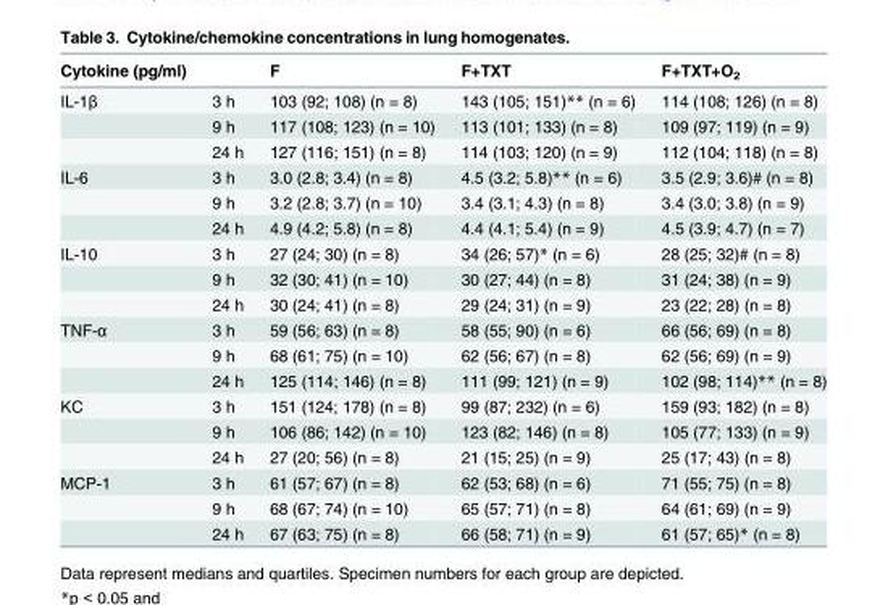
<table><thead><tr><td>Cytokine (pg/ml)</td><td></td><td>F</td><td>F+TXT</td><td>F+TXT+O<sub>2</sub></td></tr></thead><tbody><tr><td rowspan="3">IL-1β</td><td>3 h</td><td>103 (92; 108) (n = 8)</td><td>143 (105; 151)** (n = 6)</td><td>114 (108; 126) (n = 8)</td></tr><tr><td>9 h</td><td>117 (108; 123) (n = 10)</td><td>113 (101; 133) (n = 8)</td><td>109 (97; 119) (n = 9)</td></tr><tr><td>24 h</td><td>127 (116; 151) (n = 8)</td><td>114 (103; 120) (n = 9)</td><td>112 (104; 118) (n = 8)</td></tr><tr><td rowspan="3">IL-6</td><td>3 h</td><td>3.0 (2.8; 3.4) (n = 8)</td><td>4.5 (3.2; 5.8)** (n = 6)</td><td>3.5 (2.9; 3.6)# (n = 8)</td></tr><tr><td>9 h</td><td>3.2 (2.8; 3.7) (n = 10)</td><td>3.4 (3.1; 4.3) (n = 8)</td><td>3.4 (3.0; 3.8) (n = 9)</td></tr><tr><td>24 h</td><td>4.9 (4.2; 5.8) (n = 8)</td><td>4.4 (4.1; 5.4) (n = 9)</td><td>4.5 (3.9; 4.7) (n = 7)</td></tr><tr><td rowspan="3">IL-10</td><td>3 h</td><td>27 (24; 30) (n = 8)</td><td>34 (26; 57)* (n = 6)</td><td>28 (25; 32)# (n = 8)</td></tr><tr><td>9 h</td><td>32 (30; 41) (n = 10)</td><td>30 (27; 44) (n = 8)</td><td>31 (24; 38) (n = 9)</td></tr><tr><td>24 h</td><td>30 (24; 41) (n = 8)</td><td>29 (24; 31) (n = 9)</td><td>23 (22; 28) (n = 8)</td></tr><tr><td rowspan="3">TNF-α</td><td>3 h</td><td>59 (56; 63) (n = 8)</td><td>58 (55; 90) (n = 6)</td><td>66 (56; 69) (n = 8)</td></tr><tr><td>9 h</td><td>68 (61; 75) (n = 10)</td><td>62 (56; 67) (n = 8)</td><td>62 (56; 69) (n = 9)</td></tr><tr><td>24 h</td><td>125 (114; 146) (n = 8)</td><td>111 (99; 121) (n = 9)</td><td>102 (98; 114)** (n = 8)</td></tr><tr><td rowspan="3">KC</td><td>3 h</td><td>151 (124; 178) (n = 8)</td><td>99 (87; 232) (n = 6)</td><td>159 (93; 182) (n = 8)</td></tr><tr><td>9 h</td><td>106 (86; 142) (n = 10)</td><td>123 (82; 146) (n = 8)</td><td>105 (77; 133) (n = 9)</td></tr><tr><td>24 h</td><td>27 (20; 56) (n = 8)</td><td>21 (15; 25) (n = 9)</td><td>25 (17; 43) (n = 8)</td></tr><tr><td rowspan="3">MCP-1</td><td>3 h</td><td>61 (57; 67) (n = 8)</td><td>62 (53; 68) (n = 6)</td><td>71 (55; 75) (n = 8)</td></tr><tr><td>9 h</td><td>68 (67; 74) (n = 10)</td><td>65 (57; 71) (n = 8)</td><td>64 (61; 69) (n = 9)</td></tr><tr><td>24 h</td><td>67 (63; 75) (n = 8)</td><td>66 (58; 71) (n = 9)</td><td>61 (57; 65)* (n = 8)</td></tr></tbody></table>